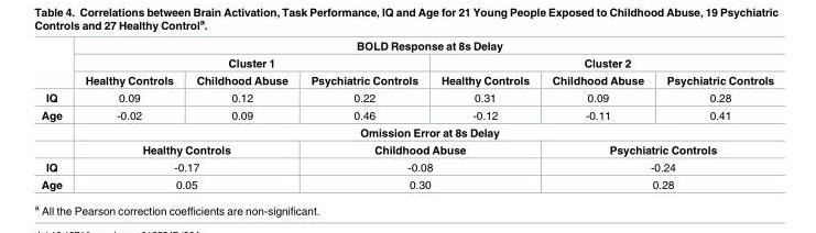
<table><thead><tr><td rowspan="3"></td><td colspan="6">BOLD Response at 8s Delay</td></tr><tr><td colspan="3">Cluster 1</td><td colspan="3">Cluster 2</td></tr><tr><td>Healthy Controls</td><td>Childhood Abuse</td><td>Psychiatric Controls</td><td>Healthy Controls</td><td>Childhood Abuse</td><td>Psychiatric Controls</td></tr></thead><tbody><tr><td>IQ</td><td>0.09</td><td>0.12</td><td>0.22</td><td>0.31</td><td>0.09</td><td>0.28</td></tr><tr><td rowspan="3">Age</td><td>-0.02</td><td>0.09</td><td>0.46</td><td>-0.12</td><td>-0.11</td><td>0.41</td></tr><tr><td colspan="6">Omission Error at 8s Delay</td></tr><tr><td colspan="2">Healthy Controls</td><td colspan="2">Childhood Abuse</td><td colspan="2">Psychiatric Controls</td></tr><tr><td>IQ</td><td colspan="2">-0.17</td><td colspan="2">-0.08</td><td colspan="2">-0.24</td></tr><tr><td>Age</td><td colspan="2">0.05</td><td colspan="2">0.30</td><td colspan="2">0.28</td></tr></tbody></table>